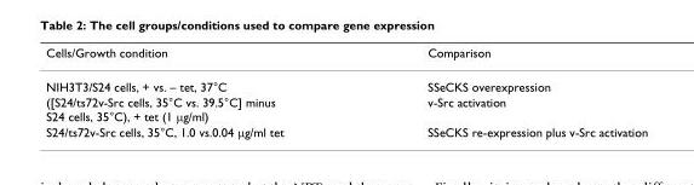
<table><thead><tr><td>Cells/Growth condition</td><td>Comparison</td></tr></thead><tbody><tr><td>NIH3T3/S24 cells, + vs. – tet, 37°C</td><td>SSeCKS overexpression</td></tr><tr><td>([S24/ts72v-Src cells, 35°C vs. 39.5°C] minus S24 cells, 35°C), + tet (1 µg/ml)</td><td>v-Src activation</td></tr><tr><td>S24/ts72v-Src cells, 35°C, 1.0 vs.0.04 µg/ml tet</td><td>SSeCKS re-expression plus v-Src activation</td></tr></tbody></table>